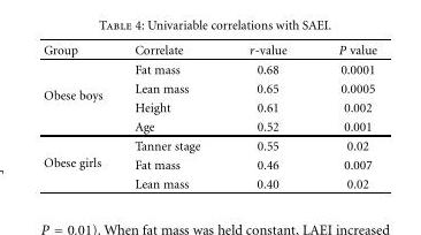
<table><thead><tr><td>Group</td><td>Correlate</td><td>r-value</td><td>P value</td></tr></thead><tbody><tr><td rowspan="4">Obese boys</td><td>Fat mass</td><td>0.68</td><td>0.0001</td></tr><tr><td>Lean mass</td><td>0.65</td><td>0.0005</td></tr><tr><td>Height</td><td>0.61</td><td>0.002</td></tr><tr><td>Age</td><td>0.52</td><td>0.001</td></tr><tr><td rowspan="3">Obese girls</td><td>Tanner stage</td><td>0.55</td><td>0.02</td></tr><tr><td>Fat mass</td><td>0.46</td><td>0.007</td></tr><tr><td>Lean mass</td><td>0.40</td><td>0.02</td></tr></tbody></table>